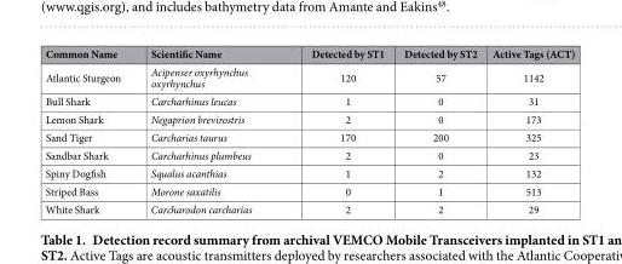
<table><thead><tr><td>Common Name</td><td>Scientific Name</td><td>Detected by ST1</td><td>Detected by ST2</td><td>Active Tags (ACT)</td></tr></thead><tbody><tr><td>Atlantic Sturgeon</td><td>Acipenser oxyrhynchus oxyrhynchus</td><td>120</td><td>57</td><td>1142</td></tr><tr><td>Bull Shark</td><td>Carcharhinus leucas</td><td>1</td><td>0</td><td>31</td></tr><tr><td>Lemon Shark</td><td>Negaprion brevirostris</td><td>2</td><td>0</td><td>173</td></tr><tr><td>Sand Tiger</td><td>Carcharias taurus</td><td>170</td><td>200</td><td>325</td></tr><tr><td>Sandbar Shark</td><td>Carcharhinus plumbeus</td><td>2</td><td>0</td><td>23</td></tr><tr><td>Spiny Dogfish</td><td>Squalus acanthias</td><td>1</td><td>2</td><td>132</td></tr><tr><td>Striped Bass</td><td>Morone saxatilis</td><td>0</td><td>1</td><td>513</td></tr><tr><td>White Shark</td><td>Carcharodon carcharias</td><td>2</td><td>2</td><td>29</td></tr></tbody></table>